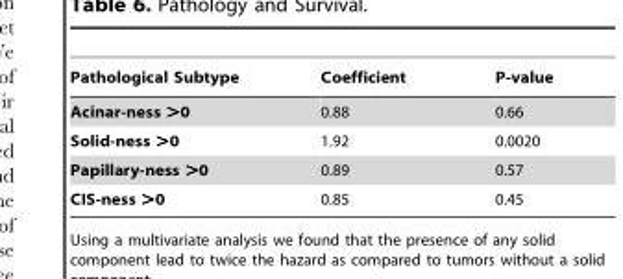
<table><thead><tr><td>Pathological Subtype</td><td>Coefficient</td><td>P-value</td></tr></thead><tbody><tr><td>Acinar-ness &gt;0</td><td>0.88</td><td>0.66</td></tr><tr><td>Solid-ness &gt;0</td><td>1.92</td><td>0.0020</td></tr><tr><td>Papillary-ness &gt;0</td><td>0.89</td><td>0.57</td></tr><tr><td>CIS-ness &gt;0</td><td>0.85</td><td>0.45</td></tr></tbody></table>